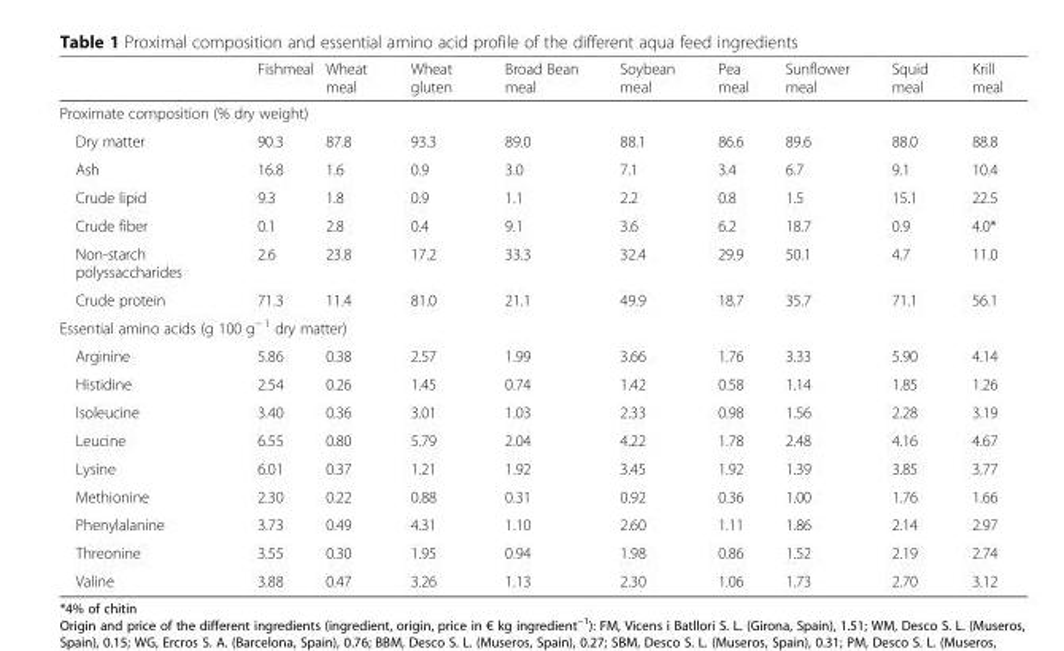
<table><thead><tr><td></td><td>Fishmeal</td><td>Wheat meal</td><td>Wheat gluten</td><td>Broad Bean meal</td><td>Soybean meal</td><td>Pea meal</td><td>Sunflower meal</td><td>Squid meal</td><td>Krill meal</td></tr></thead><tbody><tr><td colspan="10">Proximate composition (% dry weight)</td></tr><tr><td>Dry matter</td><td>90.3</td><td>87.8</td><td>93.3</td><td>89.0</td><td>88.1</td><td>86.6</td><td>89.6</td><td>88.0</td><td>88.8</td></tr><tr><td>Ash</td><td>16.8</td><td>1.6</td><td>0.9</td><td>3.0</td><td>7.1</td><td>3.4</td><td>6.7</td><td>9.1</td><td>10.4</td></tr><tr><td>Crude lipid</td><td>9.3</td><td>1.8</td><td>0.9</td><td>1.1</td><td>2.2</td><td>0.8</td><td>1.5</td><td>15.1</td><td>22.5</td></tr><tr><td>Crude fiber</td><td>0.1</td><td>2.8</td><td>0.4</td><td>9.1</td><td>3.6</td><td>6.2</td><td>18.7</td><td>0.9</td><td>4.0*</td></tr><tr><td>Non-starch polyssaccharides</td><td>2.6</td><td>23.8</td><td>17.2</td><td>33.3</td><td>32.4</td><td>29.9</td><td>50.1</td><td>4.7</td><td>11.0</td></tr><tr><td>Crude protein</td><td>71.3</td><td>11.4</td><td>81.0</td><td>21.1</td><td>49.9</td><td>18.7</td><td>35.7</td><td>71.1</td><td>56.1</td></tr><tr><td colspan="10">Essential amino acids (g 100 g<sup>− 1</sup> dry matter)</td></tr><tr><td>Arginine</td><td>5.86</td><td>0.38</td><td>2.57</td><td>1.99</td><td>3.66</td><td>1.76</td><td>3.33</td><td>5.90</td><td>4.14</td></tr><tr><td>Histidine</td><td>2.54</td><td>0.26</td><td>1.45</td><td>0.74</td><td>1.42</td><td>0.58</td><td>1.14</td><td>1.85</td><td>1.26</td></tr><tr><td>Isoleucine</td><td>3.40</td><td>0.36</td><td>3.01</td><td>1.03</td><td>2.33</td><td>0.98</td><td>1.56</td><td>2.28</td><td>3.19</td></tr><tr><td>Leucine</td><td>6.55</td><td>0.80</td><td>5.79</td><td>2.04</td><td>4.22</td><td>1.78</td><td>2.48</td><td>4.16</td><td>4.67</td></tr><tr><td>Lysine</td><td>6.01</td><td>0.37</td><td>1.21</td><td>1.92</td><td>3.45</td><td>1.92</td><td>1.39</td><td>3.85</td><td>3.77</td></tr><tr><td>Methionine</td><td>2.30</td><td>0.22</td><td>0.88</td><td>0.31</td><td>0.92</td><td>0.36</td><td>1.00</td><td>1.76</td><td>1.66</td></tr><tr><td>Phenylalanine</td><td>3.73</td><td>0.49</td><td>4.31</td><td>1.10</td><td>2.60</td><td>1.11</td><td>1.86</td><td>2.14</td><td>2.97</td></tr><tr><td>Threonine</td><td>3.55</td><td>0.30</td><td>1.95</td><td>0.94</td><td>1.98</td><td>0.86</td><td>1.52</td><td>2.19</td><td>2.74</td></tr><tr><td>Valine</td><td>3.88</td><td>0.47</td><td>3.26</td><td>1.13</td><td>2.30</td><td>1.06</td><td>1.73</td><td>2.70</td><td>3.12</td></tr></tbody></table>